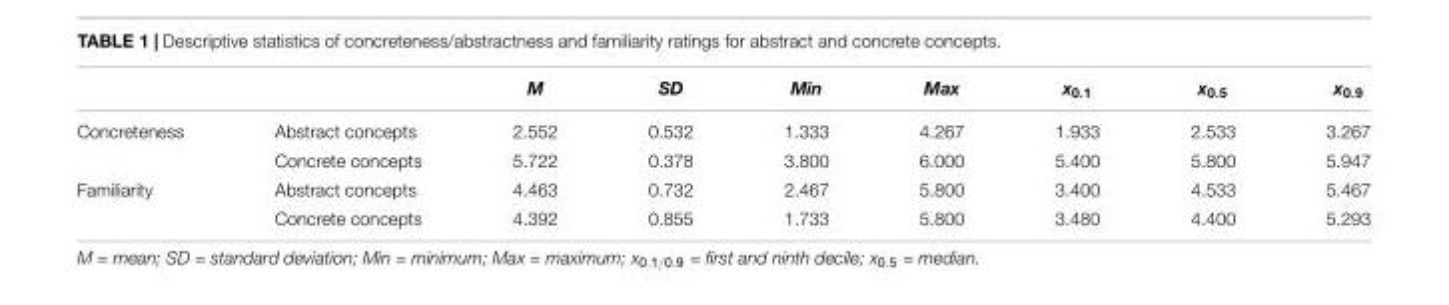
<table><thead><tr><td></td><td></td><td>M</td><td>SD</td><td>Min</td><td>Max</td><td>x<sub>0.1</sub></td><td>x<sub>0.5</sub></td><td>x<sub>0.9</sub></td></tr></thead><tbody><tr><td rowspan="2">Concreteness</td><td>Abstract concepts</td><td>2.552</td><td>0.532</td><td>1.333</td><td>4.267</td><td>1.933</td><td>2.533</td><td>3.267</td></tr><tr><td>Concrete concepts</td><td>5.722</td><td>0.378</td><td>3.800</td><td>6.000</td><td>5.400</td><td>5.800</td><td>5.947</td></tr><tr><td rowspan="2">Familiarity</td><td>Abstract concepts</td><td>4.463</td><td>0.732</td><td>2.467</td><td>5.800</td><td>3.400</td><td>4.533</td><td>5.467</td></tr><tr><td>Concrete concepts</td><td>4.392</td><td>0.855</td><td>1.733</td><td>5.800</td><td>3.480</td><td>4.400</td><td>5.293</td></tr></tbody></table>